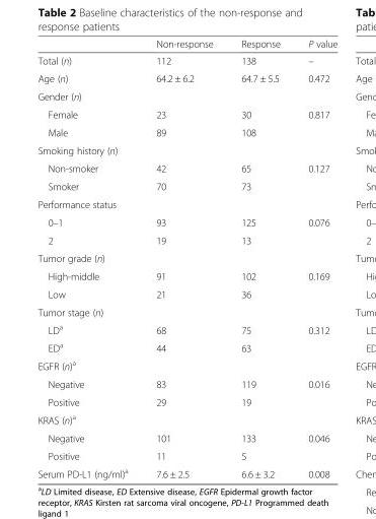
<table><thead><tr><td></td><td>Non-response</td><td>Response</td><td>P value</td></tr></thead><tbody><tr><td>Total (n)</td><td>112</td><td>138</td><td>–</td></tr><tr><td>Age (n)</td><td>64.2 ± 6.2</td><td>64.7 ± 5.5</td><td>0.472</td></tr><tr><td colspan="4">Gender (n)</td></tr><tr><td>Female</td><td>23</td><td>30</td><td>0.817</td></tr><tr><td>Male</td><td>89</td><td>108</td><td></td></tr><tr><td colspan="4">Smoking history (n)</td></tr><tr><td>Non-smoker</td><td>42</td><td>65</td><td>0.127</td></tr><tr><td>Smoker</td><td>70</td><td>73</td><td></td></tr><tr><td colspan="4">Performance status</td></tr><tr><td>0–1</td><td>93</td><td>125</td><td>0.076</td></tr><tr><td>2</td><td>19</td><td>13</td><td></td></tr><tr><td colspan="4">Tumor grade (n)</td></tr><tr><td>High-middle</td><td>91</td><td>102</td><td>0.169</td></tr><tr><td>Low</td><td>21</td><td>36</td><td></td></tr><tr><td colspan="4">Tumor stage (n)</td></tr><tr><td>LD<sup>a</sup></td><td>68</td><td>75</td><td>0.312</td></tr><tr><td>ED<sup>a</sup></td><td>44</td><td>63</td><td></td></tr><tr><td colspan="4">EGFR (n)<sup>a</sup></td></tr><tr><td>Negative</td><td>83</td><td>119</td><td>0.016</td></tr><tr><td>Positive</td><td>29</td><td>19</td><td></td></tr><tr><td colspan="4">KRAS (n)<sup>a</sup></td></tr><tr><td>Negative</td><td>101</td><td>133</td><td>0.046</td></tr><tr><td>Positive</td><td>11</td><td>5</td><td></td></tr><tr><td>Serum PD-L1 (ng/ml)<sup>a</sup></td><td>7.6 ± 2.5</td><td>6.6 ± 3.2</td><td>0.008</td></tr></tbody></table>